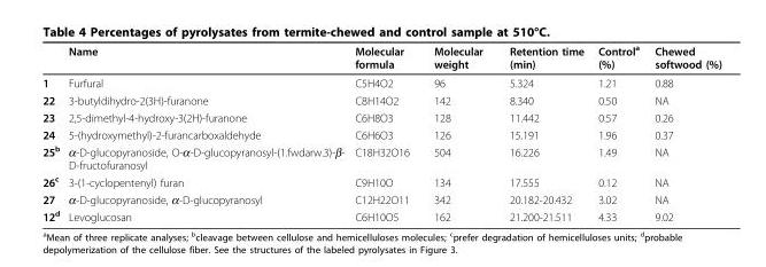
<table><thead><tr><td></td><td>Name</td><td>Molecular formula</td><td>Molecular weight</td><td>Retention time (min)</td><td>Control<sup>a</sup> (%)</td><td>Chewed softwood (%)</td></tr></thead><tbody><tr><td>1</td><td>Furfural</td><td>C5H4O2</td><td>96</td><td>5.324</td><td>1.21</td><td>0.88</td></tr><tr><td>22</td><td>3-butyldihydro-2(3H)-furanone</td><td>C8H14O2</td><td>142</td><td>8.340</td><td>0.50</td><td>NA</td></tr><tr><td>23</td><td>2,5-dimethyl-4-hydroxy-3(2H)-furanone</td><td>C6H8O3</td><td>128</td><td>11.442</td><td>0.57</td><td>0.26</td></tr><tr><td>24</td><td>5-(hydroxymethyl)-2-furancarboxaldehyde</td><td>C6H6O3</td><td>126</td><td>15.191</td><td>1.96</td><td>0.37</td></tr><tr><td>25<sup>b</sup></td><td>α-D-glucopyranoside, O-α-D-glucopyranosyl-(1.fwdarw.3)-β- D-fructofuranosyl</td><td>C18H32O16</td><td>504</td><td>16.226</td><td>1.49</td><td>NA</td></tr><tr><td>26<sup>c</sup></td><td>3-(1-cyclopentenyl) furan</td><td>C9H10O</td><td>134</td><td>17.555</td><td>0.12</td><td>NA</td></tr><tr><td>27</td><td>α-D-glucopyranoside, α-D-glucopyranosyl</td><td>C12H22O11</td><td>342</td><td>20.182-20.432</td><td>3.02</td><td>NA</td></tr><tr><td>12<sup>d</sup></td><td>Levoglucosan</td><td>C6H10O5</td><td>162</td><td>21.200-21.511</td><td>4.33</td><td>9.02</td></tr></tbody></table>